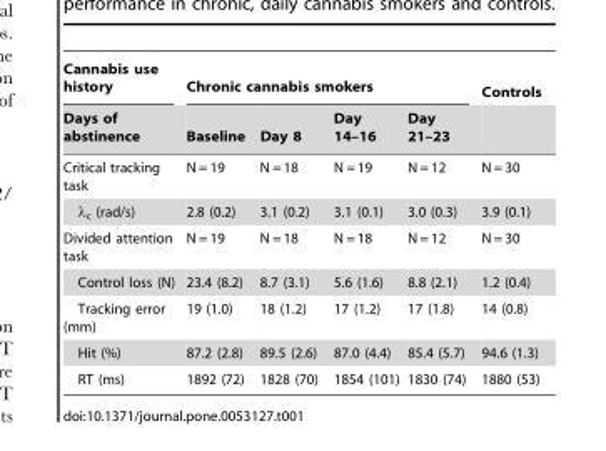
<table><thead><tr><td rowspan="2">Cannabis use history Days of abstinence</td><td colspan="4">Chronic cannabis smokers</td><td rowspan="2">Controls</td></tr><tr><td>Baseline</td><td>Day 8</td><td>Day 14–16</td><td>Day 21–23</td></tr></thead><tbody><tr><td>Critical tracking task</td><td>N = 19</td><td>N = 18</td><td>N = 19</td><td>N = 12</td><td>N = 30</td></tr><tr><td>λ<sub>c</sub> (rad/s)</td><td>2.8 (0.2)</td><td>3.1 (0.2)</td><td>3.1 (0.1)</td><td>3.0 (0.3)</td><td>3.9 (0.1)</td></tr><tr><td>Divided attention task</td><td>N = 19</td><td>N = 18</td><td>N = 18</td><td>N = 12</td><td>N = 30</td></tr><tr><td>Control loss (N)</td><td>23.4 (8.2)</td><td>8.7 (3.1)</td><td>5.6 (1.6)</td><td>8.8 (2.1)</td><td>1.2 (0.4)</td></tr><tr><td>Tracking error (mm)</td><td>19 (1.0)</td><td>18 (1.2)</td><td>17 (1.2)</td><td>17 (1.8)</td><td>14 (0.8)</td></tr><tr><td>Hit (%)</td><td>87.2 (2.8)</td><td>89.5 (2.6)</td><td>87.0 (4.4)</td><td>85.4 (5.7)</td><td>94.6 (1.3)</td></tr><tr><td>RT (ms)</td><td>1892 (72)</td><td>1828 (70)</td><td>1854 (101)</td><td>1830 (74)</td><td>1880 (53)</td></tr></tbody></table>